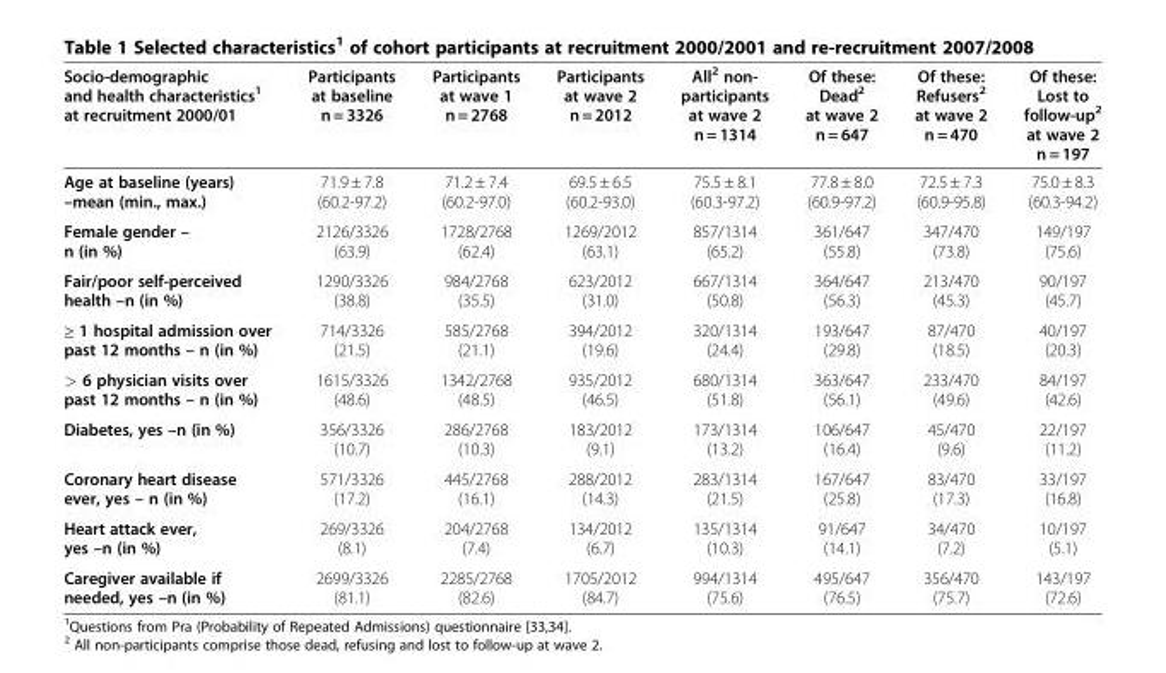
<table><thead><tr><td>Socio-demographic and health characteristics<sup>1</sup> at recruitment 2000/01</td><td>Participants at baseline n = 3326</td><td>Participants at wave 1 n = 2768</td><td>Participants at wave 2 n = 2012</td><td>All<sup>2</sup> non- participants at wave 2 n = 1314</td><td>Of these: Dead<sup>2</sup> at wave 2 n = 647</td><td>Of these: Refusers<sup>2</sup> at wave 2 n = 470</td><td>Of these: Lost to follow-up<sup>2</sup> at wave 2 n = 197</td></tr></thead><tbody><tr><td>Age at baseline (years) –mean (min., max.)</td><td>71.9 ± 7.8 (60.2-97.2)</td><td>71.2 ± 7.4 (60.2-97.0)</td><td>69.5 ± 6.5 (60.2-93.0)</td><td>75.5 ± 8.1 (60.3-97.2)</td><td>77.8 ± 8.0 (60.9-97.2)</td><td>72.5 ± 7.3 (60.9-95.8)</td><td>75.0 ± 8.3 (60.3-94.2)</td></tr><tr><td>Female gender – n (in %)</td><td>2126/3326 (63.9)</td><td>1728/2768 (62.4)</td><td>1269/2012 (63.1)</td><td>857/1314 (65.2)</td><td>361/647 (55.8)</td><td>347/470 (73.8)</td><td>149/197 (75.6)</td></tr><tr><td>Fair/poor self-perceived health –n (in %)</td><td>1290/3326 (38.8)</td><td>984/2768 (35.5)</td><td>623/2012 (31.0)</td><td>667/1314 (50.8)</td><td>364/647 (56.3)</td><td>213/470 (45.3)</td><td>90/197 (45.7)</td></tr><tr><td>≥ 1 hospital admission over past 12 months – n (in %)</td><td>714/3326 (21.5)</td><td>585/2768 (21.1)</td><td>394/2012 (19.6)</td><td>320/1314 (24.4)</td><td>193/647 (29.8)</td><td>87/470 (18.5)</td><td>40/197 (20.3)</td></tr><tr><td>&gt; 6 physician visits over past 12 months – n (in %)</td><td>1615/3326 (48.6)</td><td>1342/2768 (48.5)</td><td>935/2012 (46.5)</td><td>680/1314 (51.8)</td><td>363/647 (56.1)</td><td>233/470 (49.6)</td><td>84/197 (42.6)</td></tr><tr><td>Diabetes, yes –n (in %)</td><td>356/3326 (10.7)</td><td>286/2768 (10.3)</td><td>183/2012 (9.1)</td><td>173/1314 (13.2)</td><td>106/647 (16.4)</td><td>45/470 (9.6)</td><td>22/197 (11.2)</td></tr><tr><td>Coronary heart disease ever, yes – n (in %)</td><td>571/3326 (17.2)</td><td>445/2768 (16.1)</td><td>288/2012 (14.3)</td><td>283/1314 (21.5)</td><td>167/647 (25.8)</td><td>83/470 (17.3)</td><td>33/197 (16.8)</td></tr><tr><td>Heart attack ever, yes –n (in %)</td><td>269/3326 (8.1)</td><td>204/2768 (7.4)</td><td>134/2012 (6.7)</td><td>135/1314 (10.3)</td><td>91/647 (14.1)</td><td>34/470 (7.2)</td><td>10/197 (5.1)</td></tr><tr><td>Caregiver available if needed, yes –n (in %)</td><td>2699/3326 (81.1)</td><td>2285/2768 (82.6)</td><td>1705/2012 (84.7)</td><td>994/1314 (75.6)</td><td>495/647 (76.5)</td><td>356/470 (75.7)</td><td>143/197 (72.6)</td></tr></tbody></table>